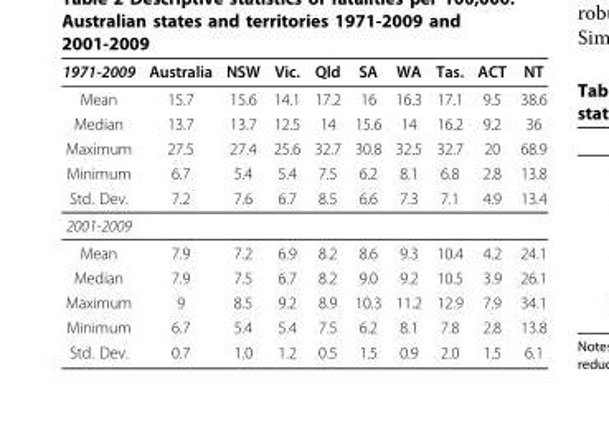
<table><thead><tr><td>1971-2009</td><td>Australia</td><td>NSW</td><td>Vic.</td><td>Qld</td><td>SA</td><td>WA</td><td>Tas.</td><td>ACT</td><td>NT</td></tr></thead><tbody><tr><td>Mean</td><td>15.7</td><td>15.6</td><td>14.1</td><td>17.2</td><td>16</td><td>16.3</td><td>17.1</td><td>9.5</td><td>38.6</td></tr><tr><td>Median</td><td>13.7</td><td>13.7</td><td>12.5</td><td>14</td><td>15.6</td><td>14</td><td>16.2</td><td>9.2</td><td>36</td></tr><tr><td>Maximum</td><td>27.5</td><td>27.4</td><td>25.6</td><td>32.7</td><td>30.8</td><td>32.5</td><td>32.7</td><td>20</td><td>68.9</td></tr><tr><td>Minimum</td><td>6.7</td><td>5.4</td><td>5.4</td><td>7.5</td><td>6.2</td><td>8.1</td><td>6.8</td><td>2.8</td><td>13.8</td></tr><tr><td>Std. Dev.</td><td>7.2</td><td>7.6</td><td>6.7</td><td>8.5</td><td>6.6</td><td>7.3</td><td>7.1</td><td>4.9</td><td>13.4</td></tr><tr><td colspan="10">2001-2009</td></tr><tr><td>Mean</td><td>7.9</td><td>7.2</td><td>6.9</td><td>8.2</td><td>8.6</td><td>9.3</td><td>10.4</td><td>4.2</td><td>24.1</td></tr><tr><td>Median</td><td>7.9</td><td>7.5</td><td>6.7</td><td>8.2</td><td>9.0</td><td>9.2</td><td>10.5</td><td>3.9</td><td>26.1</td></tr><tr><td>Maximum</td><td>9</td><td>8.5</td><td>9.2</td><td>8.9</td><td>10.3</td><td>11.2</td><td>12.9</td><td>7.9</td><td>34.1</td></tr><tr><td>Minimum</td><td>6.7</td><td>5.4</td><td>5.4</td><td>7.5</td><td>6.2</td><td>8.1</td><td>7.8</td><td>2.8</td><td>13.8</td></tr><tr><td>Std. Dev.</td><td>0.7</td><td>1.0</td><td>1.2</td><td>0.5</td><td>1.5</td><td>0.9</td><td>2.0</td><td>1.5</td><td>6.1</td></tr></tbody></table>